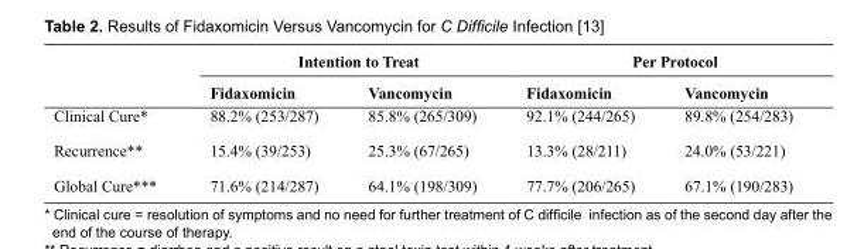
<table><thead><tr><td rowspan="2"></td><td colspan="2">Intention to Treat</td><td colspan="2">Per Protocol</td></tr><tr><td>Fidaxomicin</td><td>Vancomycin</td><td>Fidaxomicin</td><td>Vancomycin</td></tr></thead><tbody><tr><td>Clinical Cure*</td><td>88.2% (253/287)</td><td>85.8% (265/309)</td><td>92.1% (244/265)</td><td>89.8% (254/283)</td></tr><tr><td>Recurrence**</td><td>15.4% (39/253)</td><td>25.3% (67/265)</td><td>13.3% (28/211)</td><td>24.0% (53/221)</td></tr><tr><td>Global Cure***</td><td>71.6% (214/287)</td><td>64.1% (198/309)</td><td>77.7% (206/265)</td><td>67.1% (190/283)</td></tr></tbody></table>